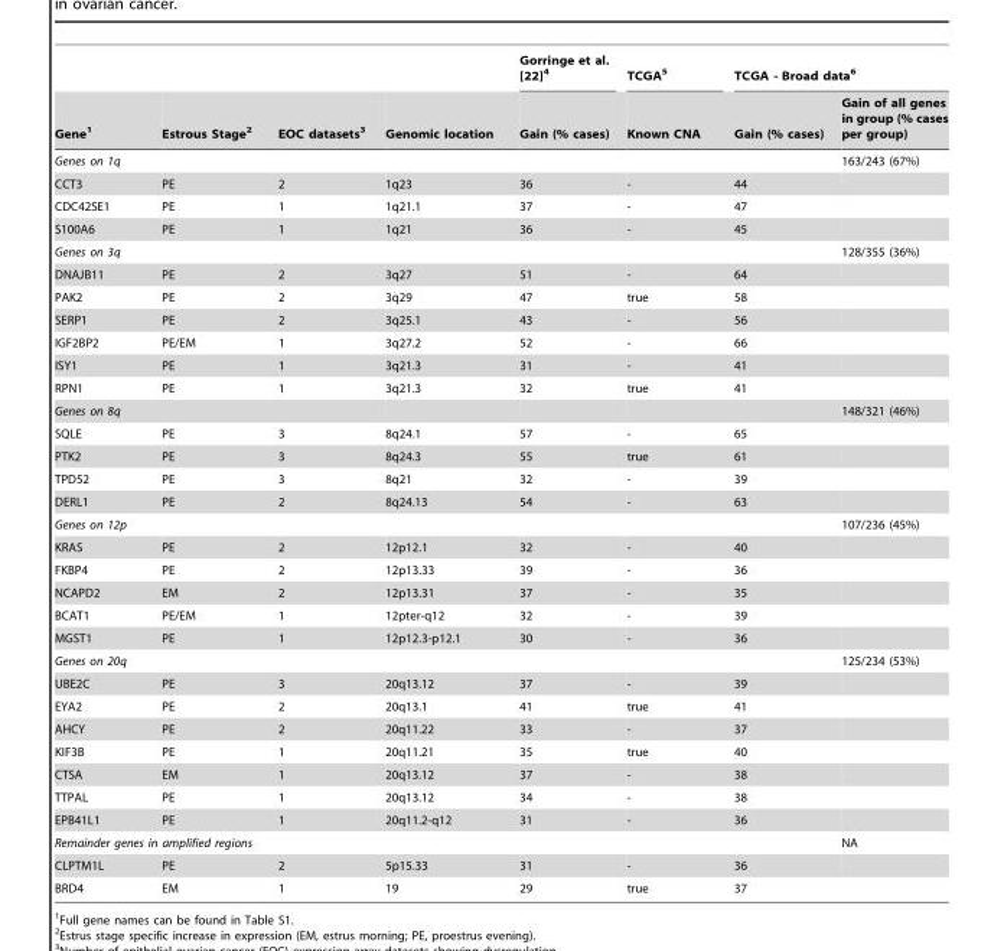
<table><thead><tr><td rowspan="2">Gene<sup>1</sup></td><td rowspan="2">Estrous Stage<sup>2</sup></td><td rowspan="2">EOC datasets<sup>3</sup></td><td rowspan="2">Genomic location</td><td rowspan="2">Gorringe et al. [22]4 Gain (% cases)</td><td rowspan="2">TCGA<sup>5</sup> Known CNA</td><td colspan="2">TCGA - Broad data<sup>6</sup></td></tr><tr><td>Gain (% cases)</td><td>Gain of all genes in group (% cases per group)</td></tr></thead><tbody><tr><td colspan="2">Genes on 1q</td><td></td><td></td><td></td><td></td><td></td><td>163/243 (67%)</td></tr><tr><td>CCT3</td><td>PE</td><td>2</td><td>1q23</td><td>36</td><td>-</td><td>44</td><td></td></tr><tr><td>CDC42SE1</td><td>PE</td><td>1</td><td>1q21.1</td><td>37</td><td>-</td><td>47</td><td></td></tr><tr><td>S100A6</td><td>PE</td><td>1</td><td>1q21</td><td>36</td><td>-</td><td>45</td><td></td></tr><tr><td colspan="2">Genes on 3q</td><td></td><td></td><td></td><td></td><td></td><td>128/355 (36%)</td></tr><tr><td>DNAJB11</td><td>PE</td><td>2</td><td>3q27</td><td>51</td><td>-</td><td>64</td><td></td></tr><tr><td>PAK2</td><td>PE</td><td>2</td><td>3q29</td><td>47</td><td>true</td><td>58</td><td></td></tr><tr><td>SERP1</td><td>PE</td><td>2</td><td>3q25.1</td><td>43</td><td>-</td><td>56</td><td></td></tr><tr><td>IGF2BP2</td><td>PE/EM</td><td>1</td><td>3q27.2</td><td>52</td><td>-</td><td>66</td><td></td></tr><tr><td>ISY1</td><td>PE</td><td>1</td><td>3q21.3</td><td>31</td><td>-</td><td>41</td><td></td></tr><tr><td>RPN1</td><td>PE</td><td>1</td><td>3q21.3</td><td>32</td><td>true</td><td>41</td><td></td></tr><tr><td colspan="2">Genes on 8q</td><td></td><td></td><td></td><td></td><td></td><td>148/321 (46%)</td></tr><tr><td>SQLE</td><td>PE</td><td>3</td><td>8q24.1</td><td>57</td><td>-</td><td>65</td><td></td></tr><tr><td>PTK2</td><td>PE</td><td>3</td><td>8q24.3</td><td>55</td><td>true</td><td>61</td><td></td></tr><tr><td>TPD52</td><td>PE</td><td>3</td><td>8q21</td><td>32</td><td>-</td><td>39</td><td></td></tr><tr><td>DERL1</td><td>PE</td><td>2</td><td>8q24.13</td><td>54</td><td>-</td><td>63</td><td></td></tr><tr><td colspan="2">Genes on 12p</td><td></td><td></td><td></td><td></td><td></td><td>107/236 (45%)</td></tr><tr><td>KRAS</td><td>PE</td><td>2</td><td>12p12.1</td><td>32</td><td>-</td><td>40</td><td></td></tr><tr><td>FKBP4</td><td>PE</td><td>2</td><td>12p13.33</td><td>39</td><td>-</td><td>36</td><td></td></tr><tr><td>NCAPD2</td><td>EM</td><td>2</td><td>12p13.31</td><td>37</td><td>-</td><td>35</td><td></td></tr><tr><td>BCAT1</td><td>PE/EM</td><td>1</td><td>12pter-q12</td><td>32</td><td>-</td><td>39</td><td></td></tr><tr><td>MGST1</td><td>PE</td><td>1</td><td>12p12.3-p12.1</td><td>30</td><td>-</td><td>36</td><td></td></tr><tr><td colspan="2">Genes on 20q</td><td></td><td></td><td></td><td></td><td></td><td>125/234 (53%)</td></tr><tr><td>UBE2C</td><td>PE</td><td>3</td><td>20q13.12</td><td>37</td><td>-</td><td>39</td><td></td></tr><tr><td>EYA2</td><td>PE</td><td>2</td><td>20q13.1</td><td>41</td><td>true</td><td>41</td><td></td></tr><tr><td>AHCY</td><td>PE</td><td>2</td><td>20q11.22</td><td>33</td><td>-</td><td>37</td><td></td></tr><tr><td>KIF3B</td><td>PE</td><td>1</td><td>20q11.21</td><td>35</td><td>true</td><td>40</td><td></td></tr><tr><td>CTSA</td><td>EM</td><td>1</td><td>20q13.12</td><td>37</td><td>-</td><td>38</td><td></td></tr><tr><td>TTPAL</td><td>PE</td><td>1</td><td>20q13.12</td><td>34</td><td>-</td><td>38</td><td></td></tr><tr><td>EPB41L1</td><td>PE</td><td>1</td><td>20q11.2-q12</td><td>31</td><td>-</td><td>36</td><td></td></tr><tr><td colspan="4">Remainder genes in amplified regions</td><td></td><td></td><td></td><td>NA</td></tr><tr><td>CLPTM1L</td><td>PE</td><td>2</td><td>5p15.33</td><td>31</td><td>-</td><td>36</td><td></td></tr><tr><td>BRD4</td><td>EM</td><td>1</td><td>19</td><td>29</td><td>true</td><td>37</td><td></td></tr></tbody></table>